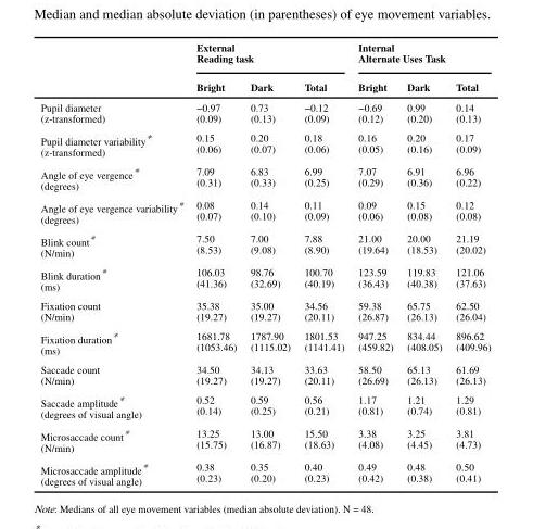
<table><thead><tr><td rowspan="2"></td><td colspan="3">External Reading task</td><td colspan="3">Internal Alternate Uses Task</td></tr><tr><td>Bright</td><td>Dark</td><td>Total</td><td>Bright</td><td>Dark</td><td>Total</td></tr></thead><tbody><tr><td>Pupil diameter (z-transformed)</td><td>−0.97 (0.09)</td><td>0.73 (0.13)</td><td>−0.12 (0.09)</td><td>−0.69 (0.12)</td><td>0.99 (0.20)</td><td>0.14 (0.13)</td></tr><tr><td>Pupil diameter variability* (z-transformed)</td><td>0.15 (0.06)</td><td>0.20 (0.07)</td><td>0.18 (0.06)</td><td>0.16 (0.05)</td><td>0.20 (0.16)</td><td>0.17 (0.09)</td></tr><tr><td>Angle of eye vergence* (degrees)</td><td>7.09 (0.31)</td><td>6.83 (0.33)</td><td>6.99 (0.25)</td><td>7.07 (0.29)</td><td>6.91 (0.36)</td><td>6.96 (0.22)</td></tr><tr><td>Angle of eye vergence variability* (degrees)</td><td>0.08 (0.07)</td><td>0.14 (0.10)</td><td>0.11 (0.09)</td><td>0.09 (0.06)</td><td>0.15 (0.08)</td><td>0.12 (0.08)</td></tr><tr><td>Blink count* (N/min)</td><td>7.50 (8.53)</td><td>7.00 (9.08)</td><td>7.88 (8.90)</td><td>21.00 (19.64)</td><td>20.00 (18.53)</td><td>21.19 (20.02)</td></tr><tr><td>Blink duration* (ms)</td><td>106.03 (41.36)</td><td>98.76 (32.69)</td><td>100.70 (40.19)</td><td>123.59 (36.43)</td><td>119.83 (40.38)</td><td>121.06 (37.63)</td></tr><tr><td>Fixation count (N/min)</td><td>35.38 (19.27)</td><td>35.00 (19.27)</td><td>34.56 (20.11)</td><td>59.38 (26.87)</td><td>65.75 (26.13)</td><td>62.50 (26.04)</td></tr><tr><td>Fixation duration* (ms)</td><td>1681.78 (1053.46)</td><td>1787.90 (1115.02)</td><td>1801.53 (1141.41)</td><td>947.25 (459.82)</td><td>834.44 (408.05)</td><td>896.62 (409.96)</td></tr><tr><td>Saccade count (N/min)</td><td>34.50 (19.27)</td><td>34.13 (19.27)</td><td>33.63 (20.11)</td><td>58.50 (26.69)</td><td>65.13 (26.13)</td><td>61.69 (26.13)</td></tr><tr><td>Saccade amplitude* (degrees of visual angle)</td><td>0.52 (0.14)</td><td>0.59 (0.25)</td><td>0.56 (0.21)</td><td>1.17 (0.81)</td><td>1.21 (0.74)</td><td>1.29 (0.81)</td></tr><tr><td>Microsaccade count* (N/min)</td><td>13.25 (15.75)</td><td>13.00 (16.87)</td><td>15.50 (18.63)</td><td>3.38 (4.08)</td><td>3.25 (4.45)</td><td>3.81 (4.73)</td></tr><tr><td>Microsaccade amplitude* (degrees of visual angle)</td><td>0.38 (0.23)</td><td>0.35 (0.20)</td><td>0.40 (0.23)</td><td>0.49 (0.42)</td><td>0.48 (0.38)</td><td>0.50 (0.41)</td></tr></tbody></table>